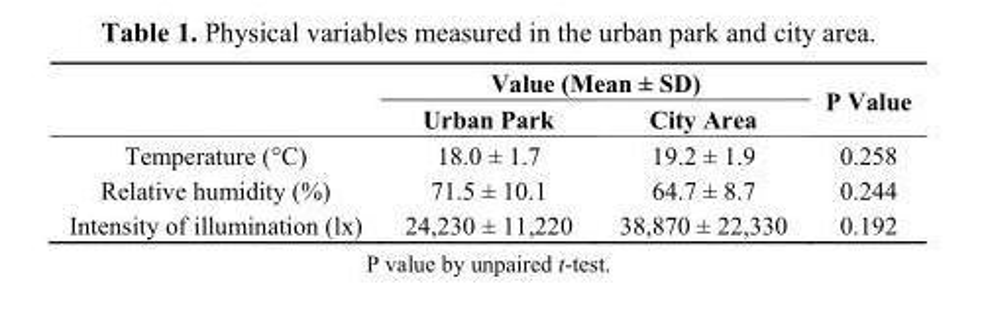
<table><thead><tr><td rowspan="2"></td><td colspan="2">Value (Mean ± SD)</td><td rowspan="2">P Value</td></tr><tr><td>Urban Park</td><td>City Area</td></tr></thead><tbody><tr><td>Temperature (°C)</td><td>18.0 ± 1.7</td><td>19.2 ± 1.9</td><td>0.258</td></tr><tr><td>Relative humidity (%)</td><td>71.5 ± 10.1</td><td>64.7 ± 8.7</td><td>0.244</td></tr><tr><td>Intensity of illumination (lx)</td><td>24,230 ± 11,220</td><td>38,870 ± 22,330</td><td>0.192</td></tr></tbody></table>